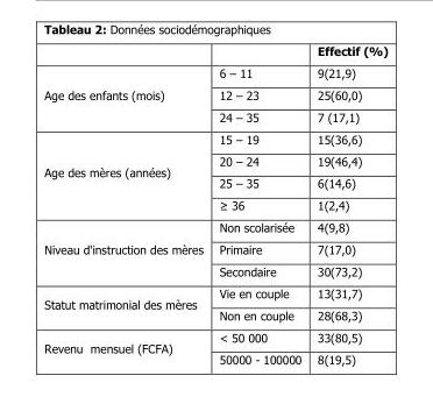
<table><thead><tr><td></td><td></td><td>Effectif (%)</td></tr></thead><tbody><tr><td rowspan="3">Age des enfants (mois)</td><td>6 – 11</td><td>9(21,9)</td></tr><tr><td>12 – 23</td><td>25(60,0)</td></tr><tr><td>24 – 35</td><td>7 (17,1)</td></tr><tr><td rowspan="4">Age des mères (années)</td><td>15 – 19</td><td>15(36,6)</td></tr><tr><td>20 – 24</td><td>19(46,4)</td></tr><tr><td>25 – 35</td><td>6(14,6)</td></tr><tr><td>≥ 36</td><td>1(2,4)</td></tr><tr><td rowspan="3">Niveau d&#x27;instruction des mères</td><td>Non scolarisée</td><td>4(9,8)</td></tr><tr><td>Primaire</td><td>7(17,0)</td></tr><tr><td>Secondaire</td><td>30(73,2)</td></tr><tr><td rowspan="2">Statut matrimonial des mères</td><td>Vie en couple</td><td>13(31,7)</td></tr><tr><td>Non en couple</td><td>28(68,3)</td></tr><tr><td rowspan="2">Revenu mensuel (FCFA)</td><td>&lt; 50 000</td><td>33(80,5)</td></tr><tr><td>50000 - 100000</td><td>8(19,5)</td></tr></tbody></table>